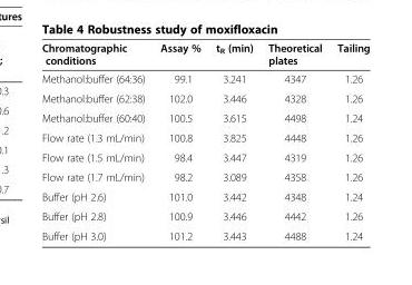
<table><thead><tr><td>Chromatographic conditions</td><td>Assay %</td><td>t<sub>R</sub> (min)</td><td>Theoretical plates</td><td>Tailing</td></tr></thead><tbody><tr><td>Methanol:buffer (64:36)</td><td>99.1</td><td>3.241</td><td>4347</td><td>1.26</td></tr><tr><td>Methanol:buffer (62:38)</td><td>102.0</td><td>3.446</td><td>4328</td><td>1.26</td></tr><tr><td>Methanol:buffer (60:40)</td><td>100.5</td><td>3.615</td><td>4498</td><td>1.24</td></tr><tr><td>Flow rate (1.3 mL/min)</td><td>100.8</td><td>3.825</td><td>4448</td><td>1.26</td></tr><tr><td>Flow rate (1.5 mL/min)</td><td>98.4</td><td>3.447</td><td>4319</td><td>1.26</td></tr><tr><td>Flow rate (1.7 mL/min)</td><td>98.2</td><td>3.089</td><td>4358</td><td>1.26</td></tr><tr><td>Buffer (pH 2.6)</td><td>101.0</td><td>3.442</td><td>4348</td><td>1.24</td></tr><tr><td>Buffer (pH 2.8)</td><td>100.9</td><td>3.446</td><td>4442</td><td>1.26</td></tr><tr><td>Buffer (pH 3.0)</td><td>101.2</td><td>3.443</td><td>4488</td><td>1.24</td></tr></tbody></table>